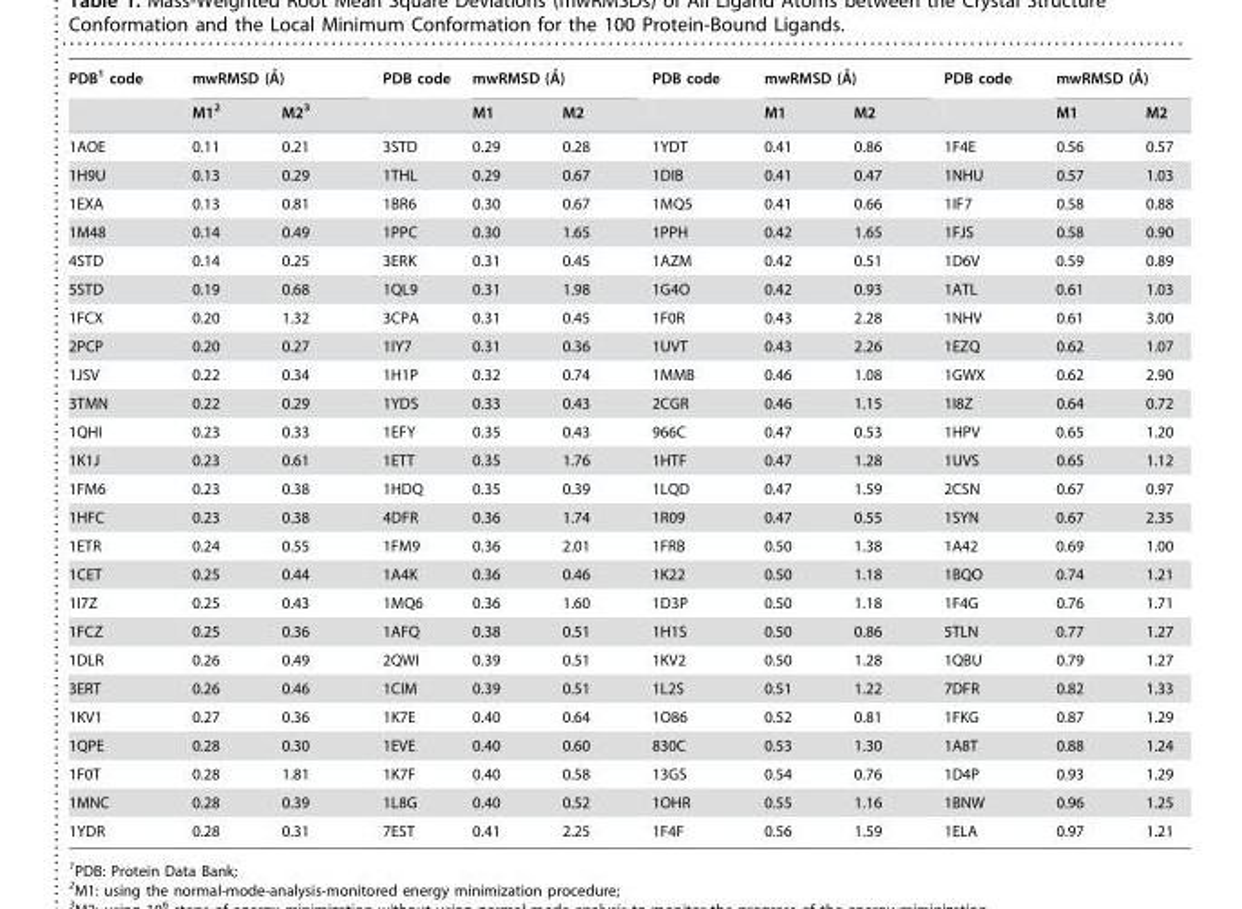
<table><thead><tr><td rowspan="2">PDB<sup>1</sup> code</td><td colspan="2">mwRMSD (A˚)</td><td rowspan="2">PDB code</td><td colspan="2">mwRMSD (A˚)</td><td rowspan="2">PDB code</td><td colspan="2">mwRMSD (A˚)</td><td rowspan="2">PDB code</td><td colspan="2">mwRMSD (A˚)</td></tr><tr><td>M1<sup>2</sup></td><td>M2<sup>3</sup></td><td>M1</td><td>M2</td><td>M1</td><td>M2</td><td>M1</td><td>M2</td></tr></thead><tbody><tr><td>1AOE</td><td>0.11</td><td>0.21</td><td>3STD</td><td>0.29</td><td>0.28</td><td>1YDT</td><td>0.41</td><td>0.86</td><td>1F4E</td><td>0.56</td><td>0.57</td></tr><tr><td>1H9U</td><td>0.13</td><td>0.29</td><td>1THL</td><td>0.29</td><td>0.67</td><td>1DIB</td><td>0.41</td><td>0.47</td><td>1NHU</td><td>0.57</td><td>1.03</td></tr><tr><td>1EXA</td><td>0.13</td><td>0.81</td><td>1BR6</td><td>0.30</td><td>0.67</td><td>1MQ5</td><td>0.41</td><td>0.66</td><td>1IF7</td><td>0.58</td><td>0.88</td></tr><tr><td>1M48</td><td>0.14</td><td>0.49</td><td>1PPC</td><td>0.30</td><td>1.65</td><td>1PPH</td><td>0.42</td><td>1.65</td><td>1FJS</td><td>0.58</td><td>0.90</td></tr><tr><td>4STD</td><td>0.14</td><td>0.25</td><td>3ERK</td><td>0.31</td><td>0.45</td><td>1AZM</td><td>0.42</td><td>0.51</td><td>1D6V</td><td>0.59</td><td>0.89</td></tr><tr><td>5STD</td><td>0.19</td><td>0.68</td><td>1QL9</td><td>0.31</td><td>1.98</td><td>1G4O</td><td>0.42</td><td>0.93</td><td>1ATL</td><td>0.61</td><td>1.03</td></tr><tr><td>1FCX</td><td>0.20</td><td>1.32</td><td>3CPA</td><td>0.31</td><td>0.45</td><td>1F0R</td><td>0.43</td><td>2.28</td><td>1NHV</td><td>0.61</td><td>3.00</td></tr><tr><td>2PCP</td><td>0.20</td><td>0.27</td><td>1IY7</td><td>0.31</td><td>0.36</td><td>1UVT</td><td>0.43</td><td>2.26</td><td>1EZQ</td><td>0.62</td><td>1.07</td></tr><tr><td>1JSV</td><td>0.22</td><td>0.34</td><td>1H1P</td><td>0.32</td><td>0.74</td><td>1MMB</td><td>0.46</td><td>1.08</td><td>1GWX</td><td>0.62</td><td>2.90</td></tr><tr><td>3TMN</td><td>0.22</td><td>0.29</td><td>1YDS</td><td>0.33</td><td>0.43</td><td>2CGR</td><td>0.46</td><td>1.15</td><td>1I8Z</td><td>0.64</td><td>0.72</td></tr><tr><td>1QHI</td><td>0.23</td><td>0.33</td><td>1EFY</td><td>0.35</td><td>0.43</td><td>966C</td><td>0.47</td><td>0.53</td><td>1HPV</td><td>0.65</td><td>1.20</td></tr><tr><td>1K1J</td><td>0.23</td><td>0.61</td><td>1ETT</td><td>0.35</td><td>1.76</td><td>1HTF</td><td>0.47</td><td>1.28</td><td>1UVS</td><td>0.65</td><td>1.12</td></tr><tr><td>1FM6</td><td>0.23</td><td>0.38</td><td>1HDQ</td><td>0.35</td><td>0.39</td><td>1LQD</td><td>0.47</td><td>1.59</td><td>2CSN</td><td>0.67</td><td>0.97</td></tr><tr><td>1HFC</td><td>0.23</td><td>0.38</td><td>4DFR</td><td>0.36</td><td>1.74</td><td>1R09</td><td>0.47</td><td>0.55</td><td>1SYN</td><td>0.67</td><td>2.35</td></tr><tr><td>1ETR</td><td>0.24</td><td>0.55</td><td>1FM9</td><td>0.36</td><td>2.01</td><td>1FRB</td><td>0.50</td><td>1.38</td><td>1A42</td><td>0.69</td><td>1.00</td></tr><tr><td>1CET</td><td>0.25</td><td>0.44</td><td>1A4K</td><td>0.36</td><td>0.46</td><td>1K22</td><td>0.50</td><td>1.18</td><td>1BQO</td><td>0.74</td><td>1.21</td></tr><tr><td>1I7Z</td><td>0.25</td><td>0.43</td><td>1MQ6</td><td>0.36</td><td>1.60</td><td>1D3P</td><td>0.50</td><td>1.18</td><td>1F4G</td><td>0.76</td><td>1.71</td></tr><tr><td>1FCZ</td><td>0.25</td><td>0.36</td><td>1AFQ</td><td>0.38</td><td>0.51</td><td>1H1S</td><td>0.50</td><td>0.86</td><td>5TLN</td><td>0.77</td><td>1.27</td></tr><tr><td>1DLR</td><td>0.26</td><td>0.49</td><td>2QWI</td><td>0.39</td><td>0.51</td><td>1KV2</td><td>0.50</td><td>1.28</td><td>1QBU</td><td>0.79</td><td>1.27</td></tr><tr><td>3ERT</td><td>0.26</td><td>0.46</td><td>1CIM</td><td>0.39</td><td>0.51</td><td>1L2S</td><td>0.51</td><td>1.22</td><td>7DFR</td><td>0.82</td><td>1.33</td></tr><tr><td>1KV1</td><td>0.27</td><td>0.36</td><td>1K7E</td><td>0.40</td><td>0.64</td><td>1O86</td><td>0.52</td><td>0.81</td><td>1FKG</td><td>0.87</td><td>1.29</td></tr><tr><td>1QPE</td><td>0.28</td><td>0.30</td><td>1EVE</td><td>0.40</td><td>0.60</td><td>830C</td><td>0.53</td><td>1.30</td><td>1A8T</td><td>0.88</td><td>1.24</td></tr><tr><td>1F0T</td><td>0.28</td><td>1.81</td><td>1K7F</td><td>0.40</td><td>0.58</td><td>13GS</td><td>0.54</td><td>0.76</td><td>1D4P</td><td>0.93</td><td>1.29</td></tr><tr><td>1MNC</td><td>0.28</td><td>0.39</td><td>1L8G</td><td>0.40</td><td>0.52</td><td>1OHR</td><td>0.55</td><td>1.16</td><td>1BNW</td><td>0.96</td><td>1.25</td></tr><tr><td>1YDR</td><td>0.28</td><td>0.31</td><td>7EST</td><td>0.41</td><td>2.25</td><td>1F4F</td><td>0.56</td><td>1.59</td><td>1ELA</td><td>0.97</td><td>1.21</td></tr></tbody></table>